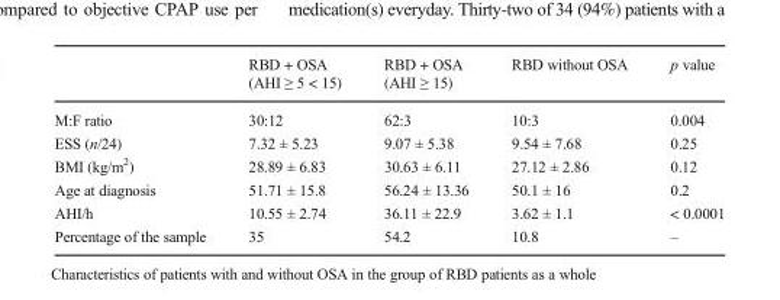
<table><thead><tr><td></td><td>RBD + OSA (AHI ≥ 5 &lt; 15)</td><td>RBD + OSA (AHI ≥ 15)</td><td>RBD without OSA</td><td>p value</td></tr></thead><tbody><tr><td>M:F ratio</td><td>30:12</td><td>62:3</td><td>10:3</td><td>0.004</td></tr><tr><td>ESS (n/24)</td><td>7.32 ± 5.23</td><td>9.07 ± 5.38</td><td>9.54 ± 7.68</td><td>0.25</td></tr><tr><td>BMI (kg/m<sup>2</sup>)</td><td>28.89 ± 6.83</td><td>30.63 ± 6.11</td><td>27.12 ± 2.86</td><td>0.12</td></tr><tr><td>Age at diagnosis</td><td>51.71 ± 15.8</td><td>56.24 ± 13.36</td><td>50.1 ± 16</td><td>0.2</td></tr><tr><td>AHI/h</td><td>10.55 ± 2.74</td><td>36.11 ± 22.9</td><td>3.62 ± 1.1</td><td>&lt; 0.0001</td></tr><tr><td>Percentage of the sample</td><td>35</td><td>54.2</td><td>10.8</td><td>–</td></tr></tbody></table>